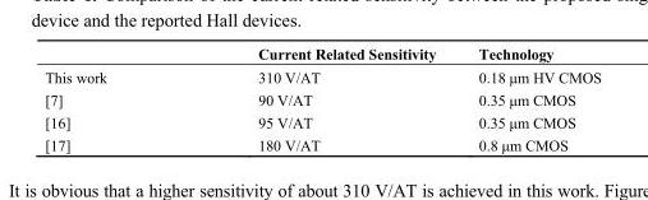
<table><thead><tr><td></td><td>Current Related Sensitivity</td><td>Technology</td></tr></thead><tbody><tr><td>This work</td><td>310 V/AT</td><td>0.18 μm HV CMOS</td></tr><tr><td>[7]</td><td>90 V/AT</td><td>0.35 μm CMOS</td></tr><tr><td>[16]</td><td>95 V/AT</td><td>0.35 μm CMOS</td></tr><tr><td>[17]</td><td>180 V/AT</td><td>0.8 μm CMOS</td></tr></tbody></table>